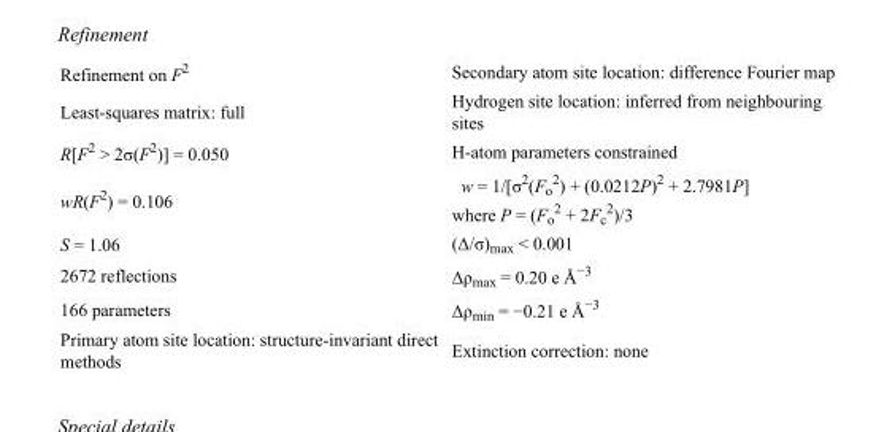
<table><tbody><tr><td>Refinement on F<sup>2</sup></td><td>Secondary atom site location: difference Fourier map</td></tr><tr><td>Least-squares matrix: full</td><td>Hydrogen site location: inferred from neighbouring sites</td></tr><tr><td>R[F<sup>2</sup> &gt; 2σ(F<sup>2</sup>)] = 0.050</td><td>H-atom parameters constrained</td></tr><tr><td>wR(F<sup>2</sup>) = 0.106</td><td>w = 1/[σ<sup>2</sup>(F<sub>o</sub> <sup>2</sup>) + (0.0212P)<sup>2</sup> + 2.7981P] where P = (F<sub>o</sub> <sup>2</sup> + 2F<sub>c</sub> <sup>2</sup>)/3</td></tr><tr><td>S = 1.06</td><td>(Δ/σ)<sub>max</sub> &lt; 0.001</td></tr><tr><td>2672 reflections</td><td>Δρ<sub>max</sub> = 0.20 e Å<sup>−3</sup></td></tr><tr><td>166 parameters</td><td>Δρ<sub>min</sub> = −0.21 e Å<sup>−3</sup></td></tr><tr><td>Primary atom site location: structure-invariant direct methods</td><td>Extinction correction: none</td></tr></tbody></table>